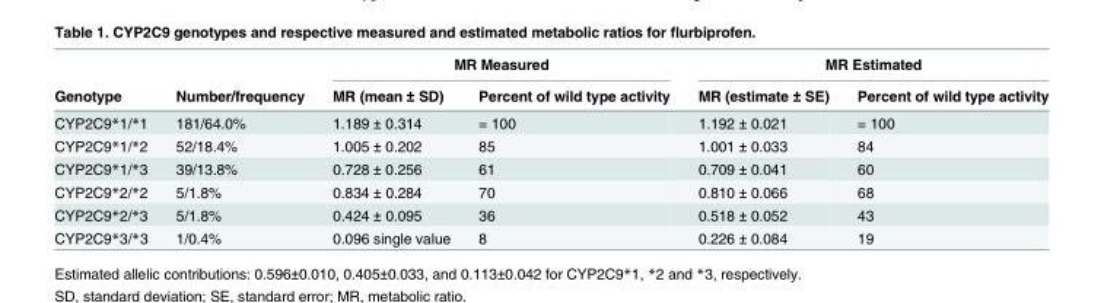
<table><thead><tr><td rowspan="2">Genotype</td><td rowspan="2">Number/frequency</td><td colspan="2">MR Measured</td><td colspan="2">MR Estimated</td></tr><tr><td>MR (mean ± SD)</td><td>Percent of wild type activity</td><td>MR (estimate ± SE)</td><td>Percent of wild type activity</td></tr></thead><tbody><tr><td>CYP2C9*1/*1</td><td>181/64.0%</td><td>1.189 ± 0.314</td><td>= 100</td><td>1.192 ± 0.021</td><td>= 100</td></tr><tr><td>CYP2C9*1/*2</td><td>52/18.4%</td><td>1.005 ± 0.202</td><td>85</td><td>1.001 ± 0.033</td><td>84</td></tr><tr><td>CYP2C9*1/*3</td><td>39/13.8%</td><td>0.728 ± 0.256</td><td>61</td><td>0.709 ± 0.041</td><td>60</td></tr><tr><td>CYP2C9*2/*2</td><td>5/1.8%</td><td>0.834 ± 0.284</td><td>70</td><td>0.810 ± 0.066</td><td>68</td></tr><tr><td>CYP2C9*2/*3</td><td>5/1.8%</td><td>0.424 ± 0.095</td><td>36</td><td>0.518 ± 0.052</td><td>43</td></tr><tr><td>CYP2C9*3/*3</td><td>1/0.4%</td><td>0.096 single value</td><td>8</td><td>0.226 ± 0.084</td><td>19</td></tr></tbody></table>